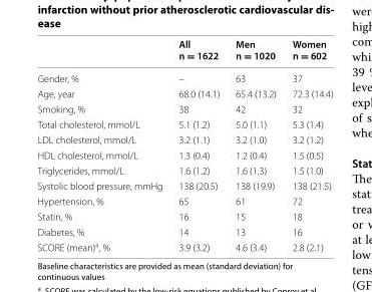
<table><thead><tr><td></td><td>All n = 1622</td><td>Men n = 1020</td><td>Women n = 602</td></tr></thead><tbody><tr><td>Gender, %</td><td>–</td><td>63</td><td>37</td></tr><tr><td>Age, year</td><td>68.0 (14.1)</td><td>65.4 (13.2)</td><td>72.3 (14.4)</td></tr><tr><td>Smoking, %</td><td>38</td><td>42</td><td>32</td></tr><tr><td>Total cholesterol, mmol/L</td><td>5.1 (1.2)</td><td>5.0 (1.1)</td><td>5.3 (1.4)</td></tr><tr><td>LDL cholesterol, mmol/L</td><td>3.2 (1.1)</td><td>3.2 (1.0)</td><td>3.2 (1.2)</td></tr><tr><td>HDL cholesterol, mmol/L</td><td>1.3 (0.4)</td><td>1.2 (0.4)</td><td>1.5 (0.5)</td></tr><tr><td>Triglycerides, mmol/L</td><td>1.6 (1.2)</td><td>1.6 (1.3)</td><td>1.5 (1.0)</td></tr><tr><td>Systolic blood pressure, mmHg</td><td>138 (20.5)</td><td>138 (19.9)</td><td>138 (21.5)</td></tr><tr><td>Hypertension, %</td><td>65</td><td>61</td><td>72</td></tr><tr><td>Statin, %</td><td>16</td><td>15</td><td>18</td></tr><tr><td>Diabetes, %</td><td>14</td><td>13</td><td>16</td></tr><tr><td>SCORE (mean)<sup>a</sup>, %</td><td>3.9 (3.2)</td><td>4.6 (3.4)</td><td>2.8 (2.1)</td></tr></tbody></table>